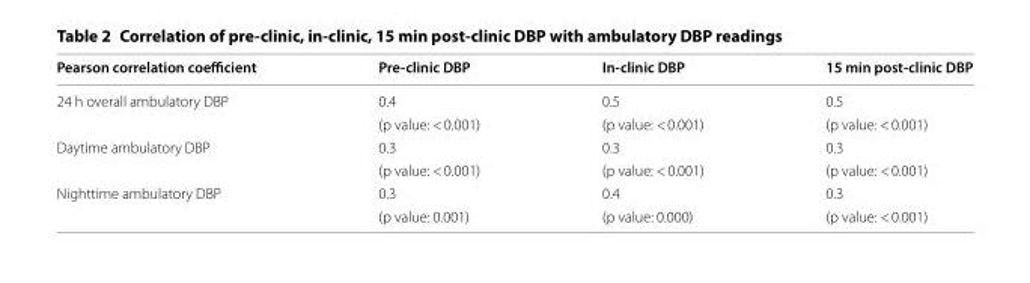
<table><thead><tr><td>Pearson correlation coefficient</td><td>Pre-clinic DBP</td><td>In-clinic DBP</td><td>15 min post-clinic DBP</td></tr></thead><tbody><tr><td rowspan="2">24 h overall ambulatory DBP</td><td>0.4</td><td>0.5</td><td>0.5</td></tr><tr><td>(p value: &lt; 0.001)</td><td>(p value: &lt; 0.001)</td><td>(p value: &lt; 0.001)</td></tr><tr><td rowspan="2">Daytime ambulatory DBP</td><td>0.3</td><td>0.3</td><td>0.3</td></tr><tr><td>(p value: &lt; 0.001)</td><td>(p value: &lt; 0.001)</td><td>(p value: &lt; 0.001)</td></tr><tr><td rowspan="2">Nighttime ambulatory DBP</td><td>0.3</td><td>0.4</td><td>0.3</td></tr><tr><td>(p value: 0.001)</td><td>(p value: 0.000)</td><td>(p value: &lt; 0.001)</td></tr></tbody></table>